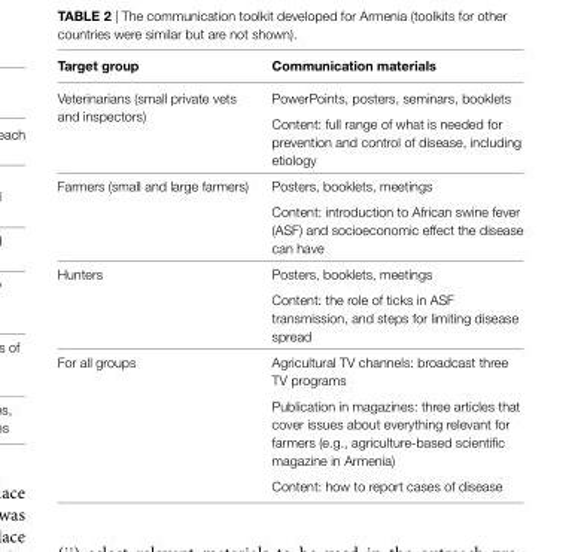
<table><thead><tr><td>target group</td><td>Communication materials</td></tr></thead><tbody><tr><td rowspan="2">Veterinarians (small private vets and inspectors)</td><td>PowerPoints, posters, seminars, booklets</td></tr><tr><td>Content: full range of what is needed for prevention and control of disease, including etiology</td></tr><tr><td rowspan="2">Farmers (small and large farmers)</td><td>Posters, booklets, meetings</td></tr><tr><td>Content: introduction to African swine fever (ASF) and socioeconomic effect the disease can have</td></tr><tr><td rowspan="2">Hunters</td><td>Posters, booklets, meetings</td></tr><tr><td>Content: the role of ticks in ASF transmission, and steps for limiting disease spread</td></tr><tr><td rowspan="3">For all groups</td><td>Agricultural TV channels: broadcast three TV programs</td></tr><tr><td>Publication in magazines: three articles that cover issues about everything relevant for farmers (e.g., agriculture-based scientific magazine in Armenia)</td></tr><tr><td>Content: how to report cases of disease</td></tr></tbody></table>